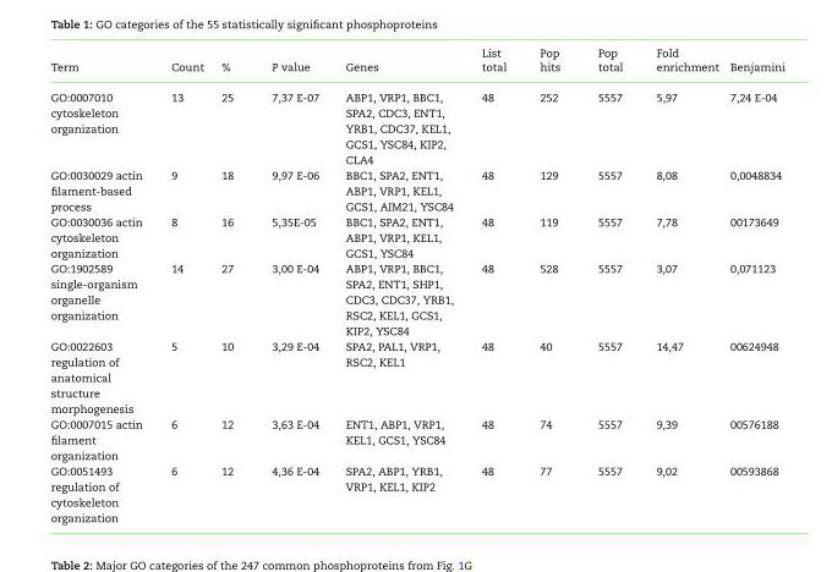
<table><thead><tr><td>Term</td><td>Count</td><td>%</td><td>P value</td><td>Genes</td><td>List total</td><td>Pop hits</td><td>Pop total</td><td>Fold enrichment</td><td>Benjamini</td></tr></thead><tbody><tr><td>GO:0007010 cytoskeleton organization</td><td>13</td><td>25</td><td>7,37 E-07</td><td>ABP1, VRP1, BBC1, SPA2, CDC3, ENT1, YRB1, CDC37, KEL1, GCS1, YSC84, KIP2, CLA4</td><td>48</td><td>252</td><td>5557</td><td>5,97</td><td>7,24 E-04</td></tr><tr><td>GO:0030029 actin filament-based process</td><td>9</td><td>18</td><td>9,97 E-06</td><td>BBC1, SPA2, ENT1, ABP1, VRP1, KEL1, GCS1, AIM21, YSC84</td><td>48</td><td>129</td><td>5557</td><td>8,08</td><td>0,0048834</td></tr><tr><td>GO:0030036 actin cytoskeleton organization</td><td>8</td><td>16</td><td>5,35E-05</td><td>BBC1, SPA2, ENT1, ABP1, VRP1, KEL1, GCS1, YSC84</td><td>48</td><td>119</td><td>5557</td><td>7,78</td><td>00173649</td></tr><tr><td>GO:1902589 single-organism organelle organization</td><td>14</td><td>27</td><td>3,00 E-04</td><td>ABP1, VRP1, BBC1, SPA2, ENT1, SHP1, CDC3, CDC37, YRB1, RSC2, KEL1, GCS1, KIP2, YSC84</td><td>48</td><td>528</td><td>5557</td><td>3,07</td><td>0,071123</td></tr><tr><td>GO:0022603 regulation of anatomical structure morphogenesis</td><td>5</td><td>10</td><td>3,29 E-04</td><td>SPA2, PAL1, VRP1, RSC2, KEL1</td><td>48</td><td>40</td><td>5557</td><td>14,47</td><td>00624948</td></tr><tr><td>GO:0007015 actin filament organization</td><td>6</td><td>12</td><td>3,63 E-04</td><td>ENT1, ABP1, VRP1, KEL1, GCS1, YSC84</td><td>48</td><td>74</td><td>5557</td><td>9,39</td><td>00576188</td></tr><tr><td>GO:0051493 regulation of cytoskeleton organization</td><td>6</td><td>12</td><td>4,36 E-04</td><td>SPA2, ABP1, YRB1, VRP1, KEL1, KIP2</td><td>48</td><td>77</td><td>5557</td><td>9,02</td><td>00593868</td></tr></tbody></table>